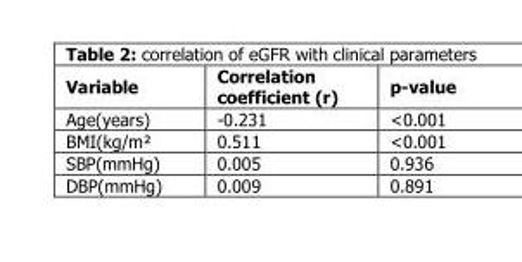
<table><thead><tr><td>Variable</td><td>Correlation coefficient (r)</td><td>p-value</td></tr></thead><tbody><tr><td>Age(years)</td><td>-0.231</td><td>&lt;0.001</td></tr><tr><td>BMI(kg/m²</td><td>0.511</td><td>&lt;0.001</td></tr><tr><td>SBP(mmHg)</td><td>0.005</td><td>0.936</td></tr><tr><td>DBP(mmHg)</td><td>0.009</td><td>0.891</td></tr></tbody></table>